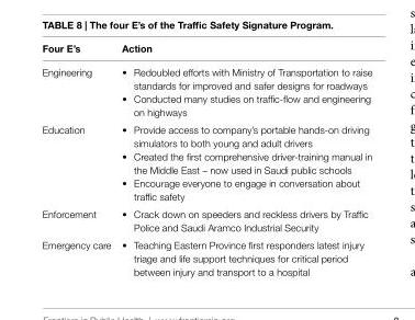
<table><thead><tr><td>Four e’s</td><td>action</td></tr></thead><tbody><tr><td>Engineering</td><td>• Redoubled efforts with Ministry of Transportation to raise standards for improved and safer designs for roadways • Conducted many studies on traffic-flow and engineering on highways</td></tr><tr><td>Education</td><td>• Provide access to company’s portable hands-on driving simulators to both young and adult drivers • Created the first comprehensive driver-training manual in the Middle East – now used in Saudi public schools • Encourage everyone to engage in conversation about traffic safety</td></tr><tr><td>Enforcement</td><td>• Crack down on speeders and reckless drivers by Traffic Police and Saudi Aramco Industrial Security</td></tr><tr><td>Emergency care</td><td>• Teaching Eastern Province first responders latest injury triage and life support techniques for critical period between injury and transport to a hospital</td></tr></tbody></table>